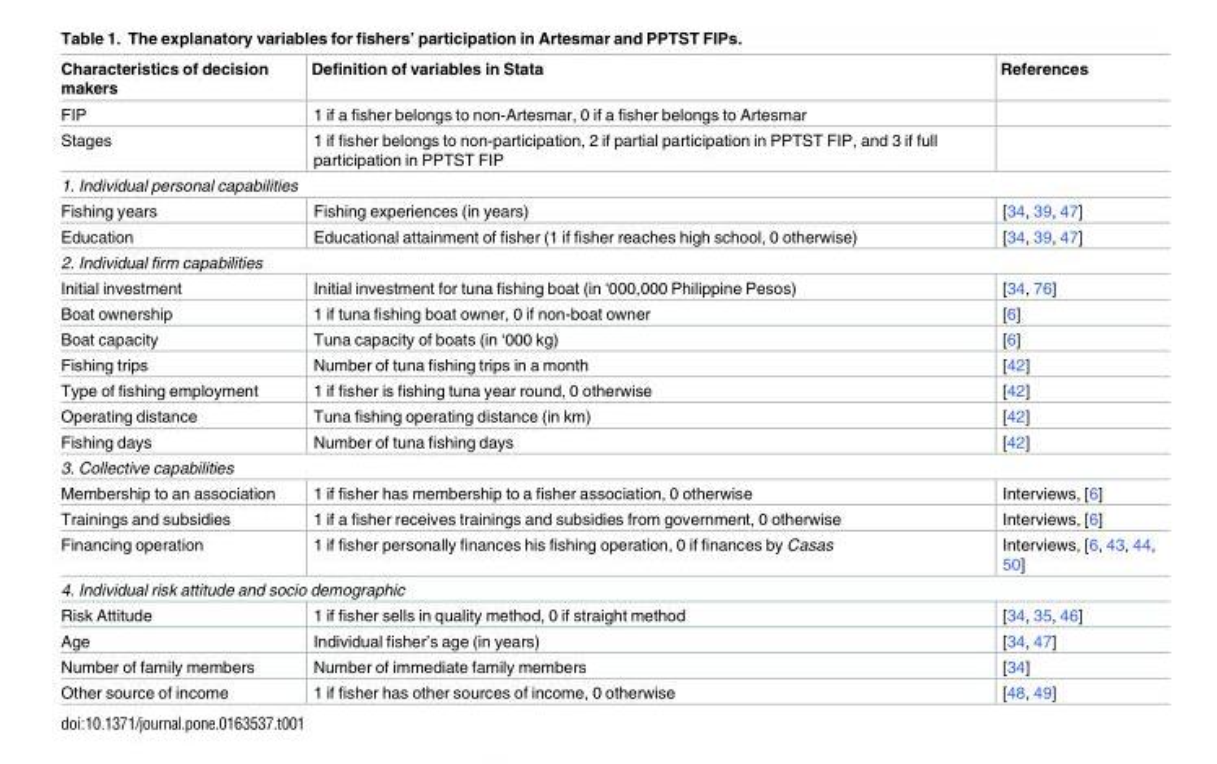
<table><thead><tr><td>Characteristics of decision makers</td><td>Definition of variables in Stata</td><td>References</td></tr></thead><tbody><tr><td>FIP</td><td>1 if a fisher belongs to non-Artesmar, 0 if a fisher belongs to Artesmar</td><td></td></tr><tr><td>Stages</td><td>1 if fisher belongs to non-participation, 2 if partial participation in PPTST FIP, and 3 if full participation in PPTST FIP</td><td></td></tr><tr><td colspan="3">1. Individual personal capabilities</td></tr><tr><td>Fishing years</td><td>Fishing experiences (in years)</td><td>[34, 39, 47]</td></tr><tr><td>Education</td><td>Educational attainment of fisher (1 if fisher reaches high school, 0 otherwise)</td><td>[34, 39, 47]</td></tr><tr><td colspan="3">2. Individual firm capabilities</td></tr><tr><td>Initial investment</td><td>Initial investment for tuna fishing boat (in ‘000,000 Philippine Pesos)</td><td>[34, 76]</td></tr><tr><td>Boat ownership</td><td>1 if tuna fishing boat owner, 0 if non-boat owner</td><td>[6]</td></tr><tr><td>Boat capacity</td><td>Tuna capacity of boats (in ‘000 kg)</td><td>[6]</td></tr><tr><td>Fishing trips</td><td>Number of tuna fishing trips in a month</td><td>[42]</td></tr><tr><td>Type of fishing employment</td><td>1 if fisher is fishing tuna year round, 0 otherwise</td><td>[42]</td></tr><tr><td>Operating distance</td><td>Tuna fishing operating distance (in km)</td><td>[42]</td></tr><tr><td>Fishing days</td><td>Number of tuna fishing days</td><td>[42]</td></tr><tr><td colspan="3">3. Collective capabilities</td></tr><tr><td>Membership to an association</td><td>1 if fisher has membership to a fisher association, 0 otherwise</td><td>Interviews, [6]</td></tr><tr><td>Trainings and subsidies</td><td>1 if a fisher receives trainings and subsidies from government, 0 otherwise</td><td>Interviews, [6]</td></tr><tr><td>Financing operation</td><td>1 if fisher personally finances his fishing operation, 0 if finances by Casas</td><td>Interviews, [6, 43, 44, 50]</td></tr><tr><td colspan="3">4. Individual risk attitude and socio demographic</td></tr><tr><td>Risk Attitude</td><td>1 if fisher sells in quality method, 0 if straight method</td><td>[34, 35, 46]</td></tr><tr><td>Age</td><td>Individual fisher’s age (in years)</td><td>[34, 47]</td></tr><tr><td>Number of family members</td><td>Number of immediate family members</td><td>[34]</td></tr><tr><td>Other source of income</td><td>1 if fisher has other sources of income, 0 otherwise</td><td>[48, 49]</td></tr></tbody></table>